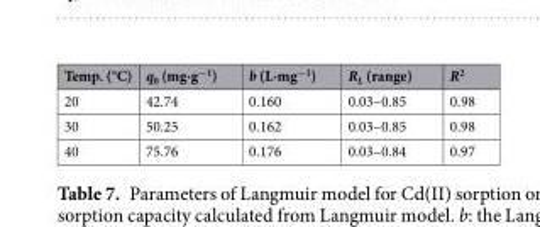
<table><thead><tr><td>Temp. (°C)</td><td>q<sub>0</sub> (mg∙g<sup>−1</sup>)</td><td>b (L∙mg<sup>−1</sup>)</td><td>R<sub>L</sub> (range)</td><td>R<sup>2</sup></td></tr></thead><tbody><tr><td>20</td><td>42.74</td><td>0.160</td><td>0.03–0.85</td><td>0.98</td></tr><tr><td>30</td><td>50.25</td><td>0.162</td><td>0.03–0.85</td><td>0.98</td></tr><tr><td>40</td><td>75.76</td><td>0.176</td><td>0.03–0.84</td><td>0.97</td></tr></tbody></table>